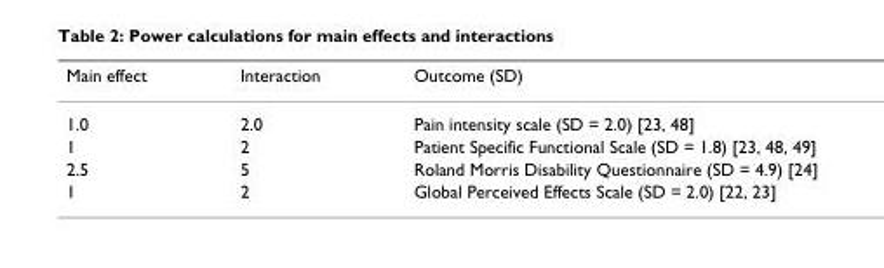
<table><thead><tr><td>Main effect</td><td>Interaction</td><td>Outcome (SD)</td></tr></thead><tbody><tr><td>1.0</td><td>2.0</td><td>Pain intensity scale (SD = 2.0) [23, 48]</td></tr><tr><td>1</td><td>2</td><td>Patient Specific Functional Scale (SD = 1.8) [23, 48, 49]</td></tr><tr><td>2.5</td><td>5</td><td>Roland Morris Disability Questionnaire (SD = 4.9) [24]</td></tr><tr><td>1</td><td>2</td><td>Global Perceived Effects Scale (SD = 2.0) [22, 23]</td></tr></tbody></table>